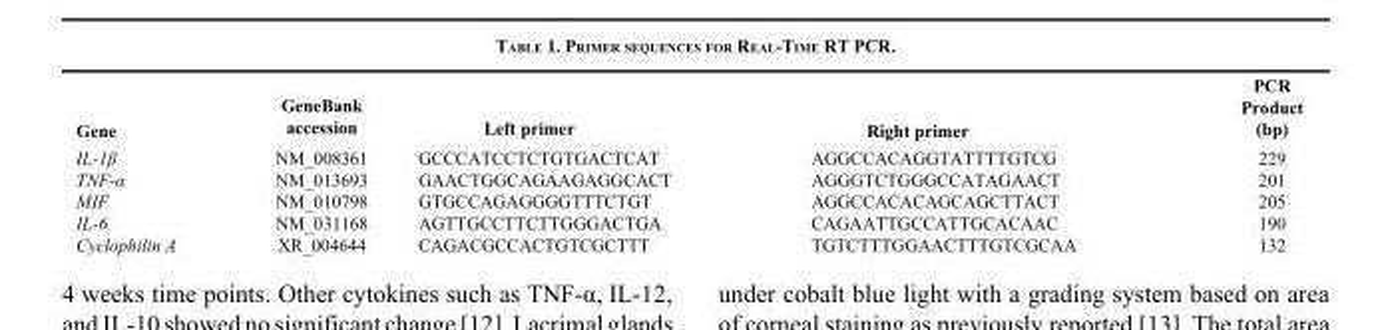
<table><thead><tr><td>Gene</td><td>GeneBank accession</td><td>Left primer</td><td>Right primer</td><td>PCR Product (bp)</td></tr></thead><tbody><tr><td>IL-1β</td><td>NM_008361</td><td>GCCCATCCTCTGTGACTCAT</td><td>AGGCCACAGGTATTTTGTCG</td><td>229</td></tr><tr><td>TNF-α</td><td>NM_013693</td><td>GAACTGGCAGAAGAGGCACT</td><td>AGGGTCTGGGCCATAGAACT</td><td>201</td></tr><tr><td>MIF</td><td>NM_010798</td><td>GTGCCAGAGGGGTTTCTGT</td><td>AGGCCACACAGCAGCTTACT</td><td>205</td></tr><tr><td>IL-6</td><td>NM_031168</td><td>AGTTGCCTTCTTGGGACTGA</td><td>CAGAATTGCCATTGCACAAC</td><td>190</td></tr><tr><td>Cyclophilin A</td><td>XR_004644</td><td>CAGACGCCACTGTCGCTTT</td><td>TGTCTTTGGAACTTTGTCGCAA</td><td>132</td></tr></tbody></table>